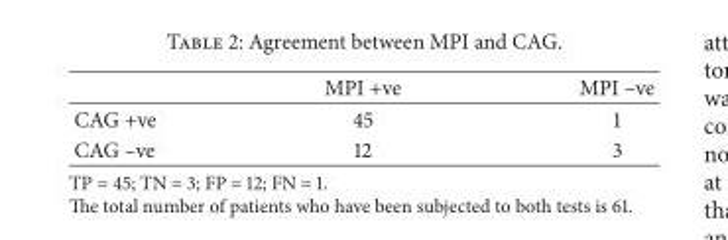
<table><thead><tr><td></td><td>MPI +ve</td><td>MPI –ve</td></tr></thead><tbody><tr><td>CAG +ve</td><td>45</td><td>1</td></tr><tr><td>CAG –ve</td><td>12</td><td>3</td></tr></tbody></table>